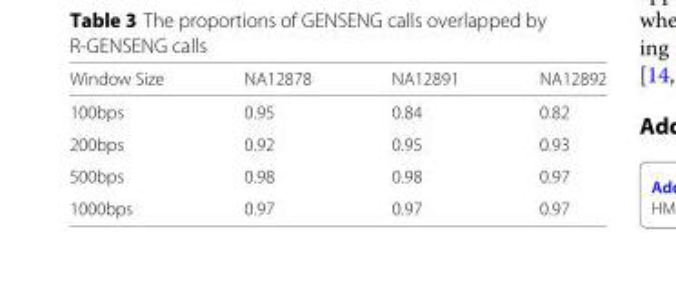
<table><thead><tr><td>Window Size</td><td>NA12878</td><td>NA12891</td><td>NA12892</td></tr></thead><tbody><tr><td>100bps</td><td>0.95</td><td>0.84</td><td>0.82</td></tr><tr><td>200bps</td><td>0.92</td><td>0.95</td><td>0.93</td></tr><tr><td>500bps</td><td>0.98</td><td>0.98</td><td>0.97</td></tr><tr><td>1000bps</td><td>0.97</td><td>0.97</td><td>0.97</td></tr></tbody></table>